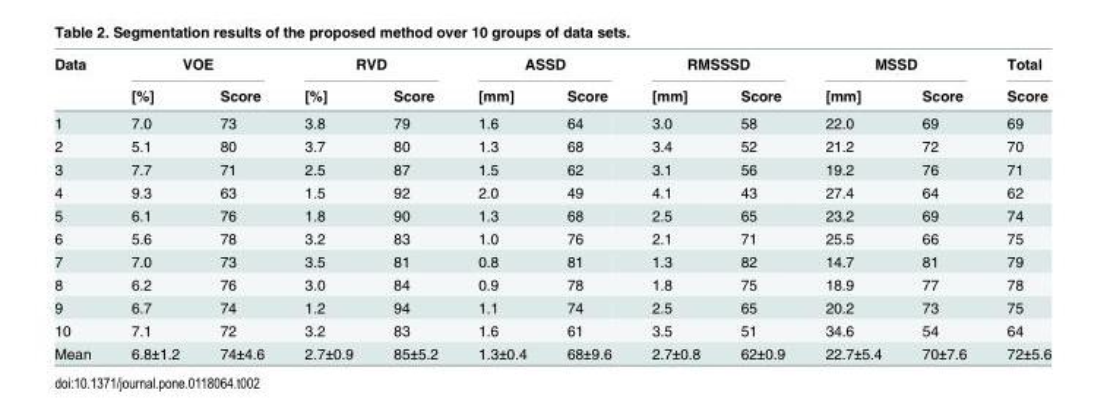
<table><thead><tr><td rowspan="2">Data</td><td colspan="2">VOE</td><td colspan="2">RVD</td><td colspan="2">ASSD</td><td colspan="2">RMSSSD</td><td colspan="2">MSSD</td><td rowspan="2">Total Score</td></tr><tr><td>[%]</td><td>Score</td><td>[%]</td><td>Score</td><td>[mm]</td><td>Score</td><td>[mm]</td><td>Score</td><td>[mm]</td><td>Score</td></tr></thead><tbody><tr><td>1</td><td>7.0</td><td>73</td><td>3.8</td><td>79</td><td>1.6</td><td>64</td><td>3.0</td><td>58</td><td>22.0</td><td>69</td><td>69</td></tr><tr><td>2</td><td>5.1</td><td>80</td><td>3.7</td><td>80</td><td>1.3</td><td>68</td><td>3.4</td><td>52</td><td>21.2</td><td>72</td><td>70</td></tr><tr><td>3</td><td>7.7</td><td>71</td><td>2.5</td><td>87</td><td>1.5</td><td>62</td><td>3.1</td><td>56</td><td>19.2</td><td>76</td><td>71</td></tr><tr><td>4</td><td>9.3</td><td>63</td><td>1.5</td><td>92</td><td>2.0</td><td>49</td><td>4.1</td><td>43</td><td>27.4</td><td>64</td><td>62</td></tr><tr><td>5</td><td>6.1</td><td>76</td><td>1.8</td><td>90</td><td>1.3</td><td>68</td><td>2.5</td><td>65</td><td>23.2</td><td>69</td><td>74</td></tr><tr><td>6</td><td>5.6</td><td>78</td><td>3.2</td><td>83</td><td>1.0</td><td>76</td><td>2.1</td><td>71</td><td>25.5</td><td>66</td><td>75</td></tr><tr><td>7</td><td>7.0</td><td>73</td><td>3.5</td><td>81</td><td>0.8</td><td>81</td><td>1.3</td><td>82</td><td>14.7</td><td>81</td><td>79</td></tr><tr><td>8</td><td>6.2</td><td>76</td><td>3.0</td><td>84</td><td>0.9</td><td>78</td><td>1.8</td><td>75</td><td>18.9</td><td>77</td><td>78</td></tr><tr><td>9</td><td>6.7</td><td>74</td><td>1.2</td><td>94</td><td>1.1</td><td>74</td><td>2.5</td><td>65</td><td>20.2</td><td>73</td><td>75</td></tr><tr><td>10</td><td>7.1</td><td>72</td><td>3.2</td><td>83</td><td>1.6</td><td>61</td><td>3.5</td><td>51</td><td>34.6</td><td>54</td><td>64</td></tr><tr><td>Mean</td><td>6.8±1.2</td><td>74±4.6</td><td>2.7±0.9</td><td>85±5.2</td><td>1.3±0.4</td><td>68±9.6</td><td>2.7±0.8</td><td>62±0.9</td><td>22.7±5.4</td><td>70±7.6</td><td>72±5.6</td></tr></tbody></table>